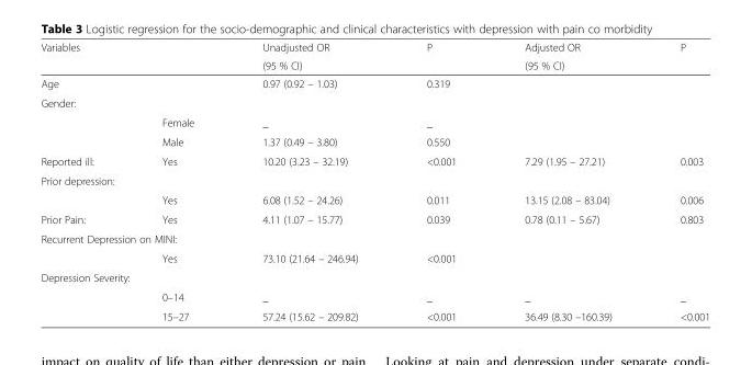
<table><thead><tr><td rowspan="2">Variables</td><td rowspan="2"></td><td rowspan="2">Unadjusted OR (95 % CI)</td><td rowspan="2">P</td><td rowspan="2">Adjusted OR (95 % CI)</td><td rowspan="2">P</td></tr><tr></tr></thead><tbody><tr><td>Age</td><td></td><td>0.97 (0.92 – 1.03)</td><td>0.319</td><td></td><td></td></tr><tr><td colspan="6">Gender:</td></tr><tr><td></td><td>Female</td><td>_</td><td>_</td><td></td><td></td></tr><tr><td></td><td>Male</td><td>1.37 (0.49 – 3.80)</td><td>0.550</td><td></td><td></td></tr><tr><td>Reported ill:</td><td>Yes</td><td>10.20 (3.23 – 32.19)</td><td>&lt;0.001</td><td>7.29 (1.95 – 27.21)</td><td>0.003</td></tr><tr><td colspan="6">Prior depression:</td></tr><tr><td></td><td>Yes</td><td>6.08 (1.52 – 24.26)</td><td>0.011</td><td>13.15 (2.08 – 83.04)</td><td>0.006</td></tr><tr><td>Prior Pain:</td><td>Yes</td><td>4.11 (1.07 – 15.77)</td><td>0.039</td><td>0.78 (0.11 – 5.67)</td><td>0.803</td></tr><tr><td colspan="6">Recurrent Depression on MINI:</td></tr><tr><td></td><td>Yes</td><td>73.10 (21.64 – 246.94)</td><td>&lt;0.001</td><td></td><td></td></tr><tr><td colspan="6">Depression Severity:</td></tr><tr><td rowspan="2"></td><td>0–14</td><td>_</td><td>_</td><td>_</td><td>_</td></tr><tr><td>15–27</td><td>57.24 (15.62 – 209.82)</td><td>&lt;0.001</td><td>36.49 (8.30 –160.39)</td><td>&lt;0.001</td></tr></tbody></table>